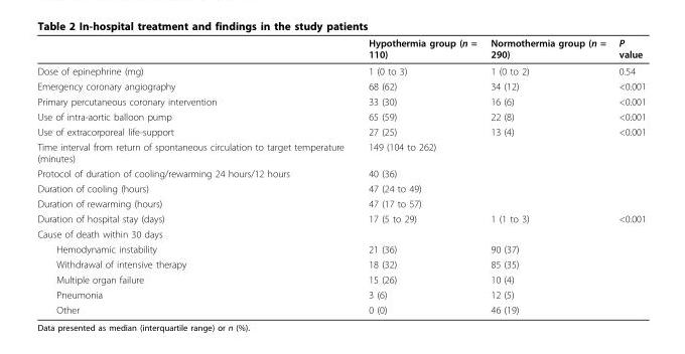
<table><thead><tr><td></td><td>Hypothermia group (n = 110)</td><td>Normothermia group (n = 290)</td><td>P value</td></tr></thead><tbody><tr><td>Dose of epinephrine (mg)</td><td>1 (0 to 3)</td><td>1 (0 to 2)</td><td>0.54</td></tr><tr><td>Emergency coronary angiography</td><td>68 (62)</td><td>34 (12)</td><td>&lt;0.001</td></tr><tr><td>Primary percutaneous coronary intervention</td><td>33 (30)</td><td>16 (6)</td><td>&lt;0.001</td></tr><tr><td>Use of intra-aortic balloon pump</td><td>65 (59)</td><td>22 (8)</td><td>&lt;0.001</td></tr><tr><td>Use of extracorporeal life-support</td><td>27 (25)</td><td>13 (4)</td><td>&lt;0.001</td></tr><tr><td>Time interval from return of spontaneous circulation to target temperature (minutes)</td><td>149 (104 to 262)</td><td></td><td></td></tr><tr><td>Protocol of duration of cooling/rewarming 24 hours/12 hours</td><td>40 (36)</td><td></td><td></td></tr><tr><td>Duration of cooling (hours)</td><td>47 (24 to 49)</td><td></td><td></td></tr><tr><td>Duration of rewarming (hours)</td><td>47 (17 to 57)</td><td></td><td></td></tr><tr><td>Duration of hospital stay (days)</td><td>17 (5 to 29)</td><td>1 (1 to 3)</td><td>&lt;0.001</td></tr><tr><td colspan="4">Cause of death within 30 days</td></tr><tr><td>Hemodynamic instability</td><td>21 (36)</td><td>90 (37)</td><td></td></tr><tr><td>Withdrawal of intensive therapy</td><td>18 (32)</td><td>85 (35)</td><td></td></tr><tr><td>Multiple organ failure</td><td>15 (26)</td><td>10 (4)</td><td></td></tr><tr><td>Pneumonia</td><td>3 (6)</td><td>12 (5)</td><td></td></tr><tr><td>Other</td><td>0 (0)</td><td>46 (19)</td><td></td></tr></tbody></table>